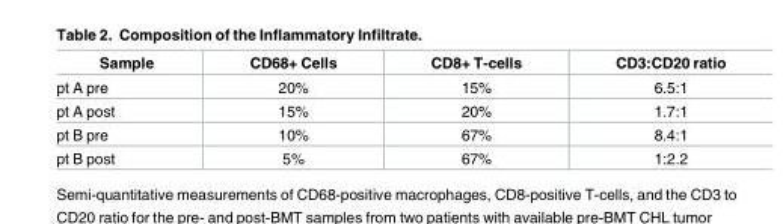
<table><thead><tr><td>Sample</td><td>CD68+ Cells</td><td>CD8+ T-cells</td><td>CD3:CD20 ratio</td></tr></thead><tbody><tr><td>pt A pre</td><td>20%</td><td>15%</td><td>6.5:1</td></tr><tr><td>pt A post</td><td>15%</td><td>20%</td><td>1.7:1</td></tr><tr><td>pt B pre</td><td>10%</td><td>67%</td><td>8.4:1</td></tr><tr><td>pt B post</td><td>5%</td><td>67%</td><td>1:2.2</td></tr></tbody></table>